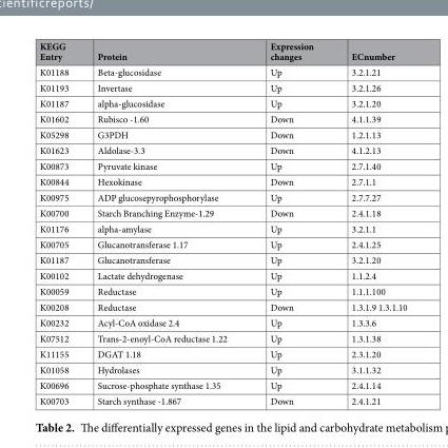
<table><thead><tr><td>KEGG Entry</td><td>Protein</td><td>Expression changes</td><td>ECnumber</td></tr></thead><tbody><tr><td>K01188</td><td>Beta-glucosidase</td><td>Up</td><td>3.2.1.21</td></tr><tr><td>K01193</td><td>Invertase</td><td>Up</td><td>3.2.1.26</td></tr><tr><td>K01187</td><td>alpha-glucosidase</td><td>Up</td><td>3.2.1.20</td></tr><tr><td>K01602</td><td>Rubisco -1.60</td><td>Down</td><td>4.1.1.39</td></tr><tr><td>K05298</td><td>G3PDH</td><td>Down</td><td>1.2.1.13</td></tr><tr><td>K01623</td><td>Aldolase-3.3</td><td>Down</td><td>4.1.2.13</td></tr><tr><td>K00873</td><td>Pyruvate kinase</td><td>Up</td><td>2.7.1.40</td></tr><tr><td>K00844</td><td>Hexokinase</td><td>Down</td><td>2.7.1.1</td></tr><tr><td>K00975</td><td>ADP glucosepyrophosphorylase</td><td>Up</td><td>2.7.7.27</td></tr><tr><td>K00700</td><td>Starch Branching Enzyme-1.29</td><td>Down</td><td>2.4.1.18</td></tr><tr><td>K01176</td><td>alpha-amylase</td><td>Up</td><td>3.2.1.1</td></tr><tr><td>K00705</td><td>Glucanotransferase 1.17</td><td>Up</td><td>2.4.1.25</td></tr><tr><td>K01187</td><td>Glucanotransferase</td><td>Up</td><td>3.2.1.20</td></tr><tr><td>K00102</td><td>Lactate dehydrogenase</td><td>Up</td><td>1.1.2.4</td></tr><tr><td>K00059</td><td>Reductase</td><td>Up</td><td>1.1.1.100</td></tr><tr><td>K00208</td><td>Reductase</td><td>Down</td><td>1.3.1.9 1.3.1.10</td></tr><tr><td>K00232</td><td>Acyl-CoA oxidase 2.4</td><td>Up</td><td>1.3.3.6</td></tr><tr><td>K07512</td><td>Trans-2-enoyl-CoA reductase 1.22</td><td>Up</td><td>1.3.1.38</td></tr><tr><td>K11155</td><td>DGAT 1.18</td><td>Up</td><td>2.3.1.20</td></tr><tr><td>K01058</td><td>Hydrolases</td><td>Up</td><td>3.1.1.32</td></tr><tr><td>K00696</td><td>Sucrose-phosphate synthase 1.35</td><td>Up</td><td>2.4.1.14</td></tr><tr><td>K00703</td><td>Starch synthase -1.867</td><td>Down</td><td>2.4.1.21</td></tr></tbody></table>